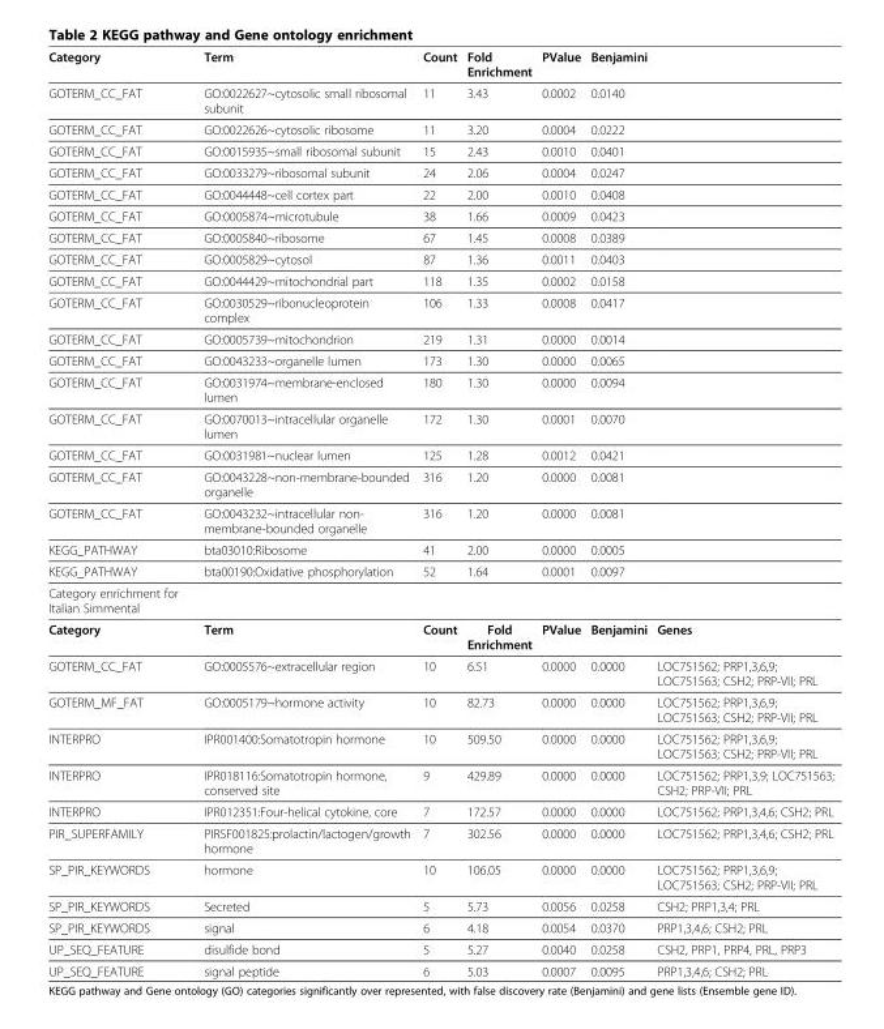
<table><tbody><tr><td>Category</td><td>Term</td><td>Count</td><td>Fold Enrichment</td><td>PValue</td><td>Benjamini</td><td></td></tr><tr><td>GOTERM_CC_FAT</td><td>GO:0022627~cytosolic small ribosomal subunit</td><td>11</td><td>3.43</td><td>0.0002</td><td>0.0140</td><td></td></tr><tr><td>GOTERM_CC_FAT</td><td>GO:0022626~cytosolic ribosome</td><td>11</td><td>3.20</td><td>0.0004</td><td>0.0222</td><td></td></tr><tr><td>GOTERM_CC_FAT</td><td>GO:0015935~small ribosomal subunit</td><td>15</td><td>2.43</td><td>0.0010</td><td>0.0401</td><td></td></tr><tr><td>GOTERM_CC_FAT</td><td>GO:0033279~ribosomal subunit</td><td>24</td><td>2.06</td><td>0.0004</td><td>0.0247</td><td></td></tr><tr><td>GOTERM_CC_FAT</td><td>GO:0044448~cell cortex part</td><td>22</td><td>2.00</td><td>0.0010</td><td>0.0408</td><td></td></tr><tr><td>GOTERM_CC_FAT</td><td>GO:0005874~microtubule</td><td>38</td><td>1.66</td><td>0.0009</td><td>0.0423</td><td></td></tr><tr><td>GOTERM_CC_FAT</td><td>GO:0005840~ribosome</td><td>67</td><td>1.45</td><td>0.0008</td><td>0.0389</td><td></td></tr><tr><td>GOTERM_CC_FAT</td><td>GO:0005829~cytosol</td><td>87</td><td>1.36</td><td>0.0011</td><td>0.0403</td><td></td></tr><tr><td>GOTERM_CC_FAT</td><td>GO:0044429~mitochondrial part</td><td>118</td><td>1.35</td><td>0.0002</td><td>0.0158</td><td></td></tr><tr><td>GOTERM_CC_FAT</td><td>GO:0030529~ribonucleoprotein complex</td><td>106</td><td>1.33</td><td>0.0008</td><td>0.0417</td><td></td></tr><tr><td>GOTERM_CC_FAT</td><td>GO:0005739~mitochondrion</td><td>219</td><td>1.31</td><td>0.0000</td><td>0.0014</td><td></td></tr><tr><td>GOTERM_CC_FAT</td><td>GO:0043233~organelle lumen</td><td>173</td><td>1.30</td><td>0.0000</td><td>0.0065</td><td></td></tr><tr><td>GOTERM_CC_FAT</td><td>GO:0031974~membrane-enclosed lumen</td><td>180</td><td>1.30</td><td>0.0000</td><td>0.0094</td><td></td></tr><tr><td>GOTERM_CC_FAT</td><td>GO:0070013~intracellular organelle lumen</td><td>172</td><td>1.30</td><td>0.0001</td><td>0.0070</td><td></td></tr><tr><td>GOTERM_CC_FAT</td><td>GO:0031981~nuclear lumen</td><td>125</td><td>1.28</td><td>0.0012</td><td>0.0421</td><td></td></tr><tr><td>GOTERM_CC_FAT</td><td>GO:0043228~non-membrane-bounded organelle</td><td>316</td><td>1.20</td><td>0.0000</td><td>0.0081</td><td></td></tr><tr><td>GOTERM_CC_FAT</td><td>GO:0043232~intracellular non- membrane-bounded organelle</td><td>316</td><td>1.20</td><td>0.0000</td><td>0.0081</td><td></td></tr><tr><td>KEGG_PATHWAY</td><td>bta03010:Ribosome</td><td>41</td><td>2.00</td><td>0.0000</td><td>0.0005</td><td></td></tr><tr><td>KEGG_PATHWAY</td><td>bta00190:Oxidative phosphorylation</td><td>52</td><td>1.64</td><td>0.0001</td><td>0.0097</td><td></td></tr><tr><td colspan="7">Category enrichment for Italian Simmental</td></tr><tr><td>Category</td><td>Term</td><td>Count</td><td>Fold Enrichment</td><td>PValue</td><td>Benjamini</td><td>Genes</td></tr><tr><td>GOTERM_CC_FAT</td><td>GO:0005576~extracellular region</td><td>10</td><td>6.51</td><td>0.0000</td><td>0.0000</td><td>LOC751562; PRP1,3,6,9; LOC751563; CSH2; PRP-VII; PRL</td></tr><tr><td>GOTERM_MF_FAT</td><td>GO:0005179~hormone activity</td><td>10</td><td>82.73</td><td>0.0000</td><td>0.0000</td><td>LOC751562; PRP1,3,6,9; LOC751563; CSH2; PRP-VII; PRL</td></tr><tr><td>INTERPRO</td><td>IPR001400:Somatotropin hormone</td><td>10</td><td>509.50</td><td>0.0000</td><td>0.0000</td><td>LOC751562; PRP1,3,6,9; LOC751563; CSH2; PRP-VII; PRL</td></tr><tr><td>INTERPRO</td><td>IPR018116:Somatotropin hormone, conserved site</td><td>9</td><td>429.89</td><td>0.0000</td><td>0.0000</td><td>LOC751562; PRP1,3,9; LOC751563; CSH2; PRP-VII; PRL</td></tr><tr><td>INTERPRO</td><td>IPR012351:Four-helical cytokine, core</td><td>7</td><td>172.57</td><td>0.0000</td><td>0.0000</td><td>LOC751562; PRP1,3,4,6; CSH2; PRL</td></tr><tr><td>PIR_SUPERFAMILY</td><td>PIRSF001825:prolactin/lactogen/growth hormone</td><td>7</td><td>302.56</td><td>0.0000</td><td>0.0000</td><td>LOC751562; PRP1,3,4,6; CSH2; PRL</td></tr><tr><td>SP_PIR_KEYWORDS</td><td>hormone</td><td>10</td><td>106.05</td><td>0.0000</td><td>0.0000</td><td>LOC751562; PRP1,3,6,9; LOC751563; CSH2; PRP-VII; PRL</td></tr><tr><td>SP_PIR_KEYWORDS</td><td>Secreted</td><td>5</td><td>5.73</td><td>0.0056</td><td>0.0258</td><td>CSH2; PRP1,3,4; PRL</td></tr><tr><td>SP_PIR_KEYWORDS</td><td>signal</td><td>6</td><td>4.18</td><td>0.0054</td><td>0.0370</td><td>PRP1,3,4,6; CSH2; PRL</td></tr><tr><td>UP_SEQ_FEATURE</td><td>disulfide bond</td><td>5</td><td>5.27</td><td>0.0040</td><td>0.0258</td><td>CSH2, PRP1, PRP4, PRL, PRP3</td></tr><tr><td>UP_SEQ_FEATURE</td><td>signal peptide</td><td>6</td><td>5.03</td><td>0.0007</td><td>0.0095</td><td>PRP1,3,4,6; CSH2; PRL</td></tr></tbody></table>